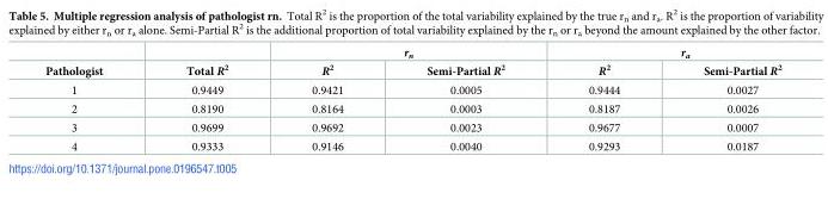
<table><thead><tr><td rowspan="2">Pathologist</td><td rowspan="2">Total R<sup>2</sup></td><td colspan="2">r<sub>n</sub></td><td colspan="2">r<sub>a</sub></td></tr><tr><td>R<sup>2</sup></td><td>Semi-Partial R<sup>2</sup></td><td>R<sup>2</sup></td><td>Semi-Partial R<sup>2</sup></td></tr></thead><tbody><tr><td>1</td><td>0.9449</td><td>0.9421</td><td>0.0005</td><td>0.9444</td><td>0.0027</td></tr><tr><td>2</td><td>0.8190</td><td>0.8164</td><td>0.0003</td><td>0.8187</td><td>0.0026</td></tr><tr><td>3</td><td>0.9699</td><td>0.9692</td><td>0.0023</td><td>0.9677</td><td>0.0007</td></tr><tr><td>4</td><td>0.9333</td><td>0.9146</td><td>0.0040</td><td>0.9293</td><td>0.0187</td></tr></tbody></table>